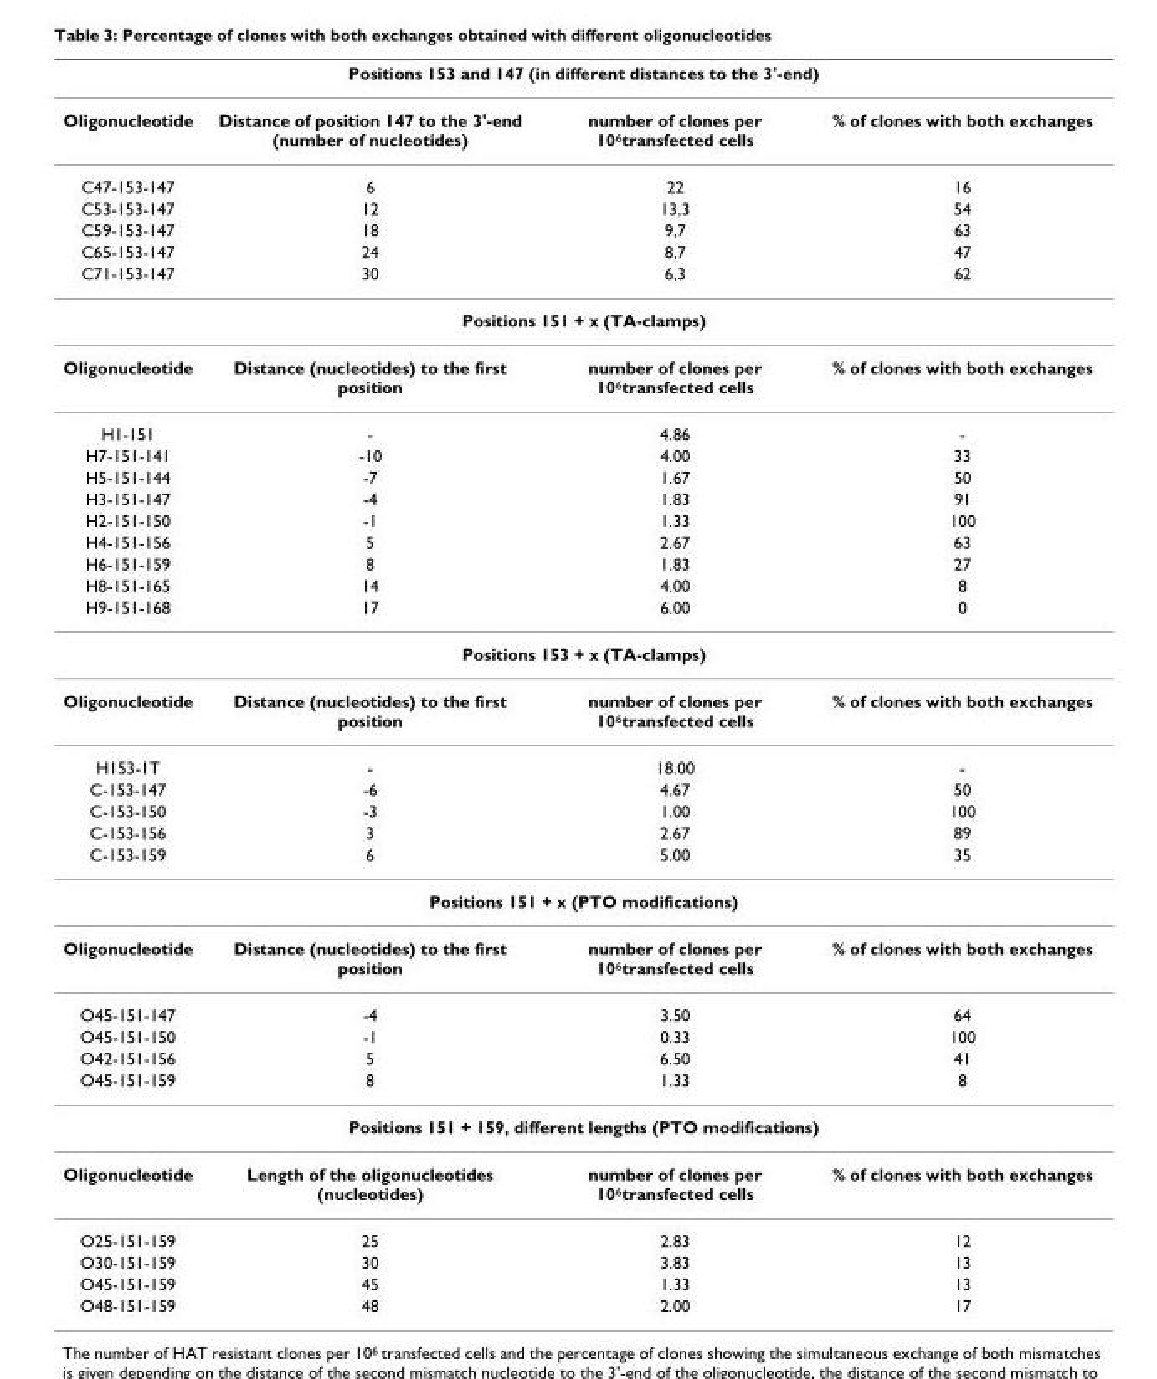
<table><thead><tr><td colspan="4">Positions 153 and 147 (in different distances to the 3&#x27;-end)</td></tr><tr><td>Oligonucleotide</td><td>Distance of position 147 to the 3&#x27;-end (number of nucleotides)</td><td>number of clones per 10<sup>6</sup>transfected cells</td><td>% of clones with both exchanges</td></tr></thead><tbody><tr><td>C47-153-147</td><td>6</td><td>22</td><td>16</td></tr><tr><td>C53-153-147</td><td>12</td><td>13,3</td><td>54</td></tr><tr><td>C59-153-147</td><td>18</td><td>9,7</td><td>63</td></tr><tr><td>C65-153-147</td><td>24</td><td>8,7</td><td>47</td></tr><tr><td>C71-153-147</td><td>30</td><td>6,3</td><td>62</td></tr><tr><td colspan="4">Positions 151 + x (TA-clamps)</td></tr><tr><td>Oligonucleotide</td><td>Distance (nucleotides) to the first position</td><td>number of clones per 10<sup>6</sup>transfected cells</td><td>% of clones with both exchanges</td></tr><tr><td>H1-151</td><td>-</td><td>4.86</td><td>-</td></tr><tr><td>H7-151-141</td><td>-10</td><td>4.00</td><td>33</td></tr><tr><td>H5-151-144</td><td>-7</td><td>1.67</td><td>50</td></tr><tr><td>H3-151-147</td><td>-4</td><td>1.83</td><td>91</td></tr><tr><td>H2-151-150</td><td>-1</td><td>1.33</td><td>100</td></tr><tr><td>H4-151-156</td><td>5</td><td>2.67</td><td>63</td></tr><tr><td>H6-151-159</td><td>8</td><td>1.83</td><td>27</td></tr><tr><td>H8-151-165</td><td>14</td><td>4.00</td><td>8</td></tr><tr><td>H9-151-168</td><td>17</td><td>6.00</td><td>0</td></tr><tr><td colspan="4">Positions 153 + x (TA-clamps)</td></tr><tr><td>Oligonucleotide</td><td>Distance (nucleotides) to the first position</td><td>number of clones per 10<sup>6</sup>transfected cells</td><td>% of clones with both exchanges</td></tr><tr><td>H153-1T</td><td>-</td><td>18.00</td><td>-</td></tr><tr><td>C-153-147</td><td>-6</td><td>4.67</td><td>50</td></tr><tr><td>C-153-150</td><td>-3</td><td>1.00</td><td>100</td></tr><tr><td>C-153-156</td><td>3</td><td>2.67</td><td>89</td></tr><tr><td>C-153-159</td><td>6</td><td>5.00</td><td>35</td></tr><tr><td colspan="4">Positions 151 + x (PTO modifications)</td></tr><tr><td>Oligonucleotide</td><td>Distance (nucleotides) to the first position</td><td>number of clones per 10<sup>6</sup>transfected cells</td><td>% of clones with both exchanges</td></tr><tr><td>O45-151-147</td><td>-4</td><td>3.50</td><td>64</td></tr><tr><td>O45-151-150</td><td>-1</td><td>0.33</td><td>100</td></tr><tr><td>O42-151-156</td><td>5</td><td>6.50</td><td>41</td></tr><tr><td>O45-151-159</td><td>8</td><td>1.33</td><td>8</td></tr><tr><td colspan="4">Positions 151 + 159, different lengths (PTO modifications)</td></tr><tr><td>Oligonucleotide</td><td>Length of the oligonucleotides (nucleotides)</td><td>number of clones per 10<sup>6</sup>transfected cells</td><td>% of clones with both exchanges</td></tr><tr><td>O25-151-159</td><td>25</td><td>2.83</td><td>12</td></tr><tr><td>O30-151-159</td><td>30</td><td>3.83</td><td>13</td></tr><tr><td>O45-151-159</td><td>45</td><td>1.33</td><td>13</td></tr><tr><td>O48-151-159</td><td>48</td><td>2.00</td><td>17</td></tr></tbody></table>